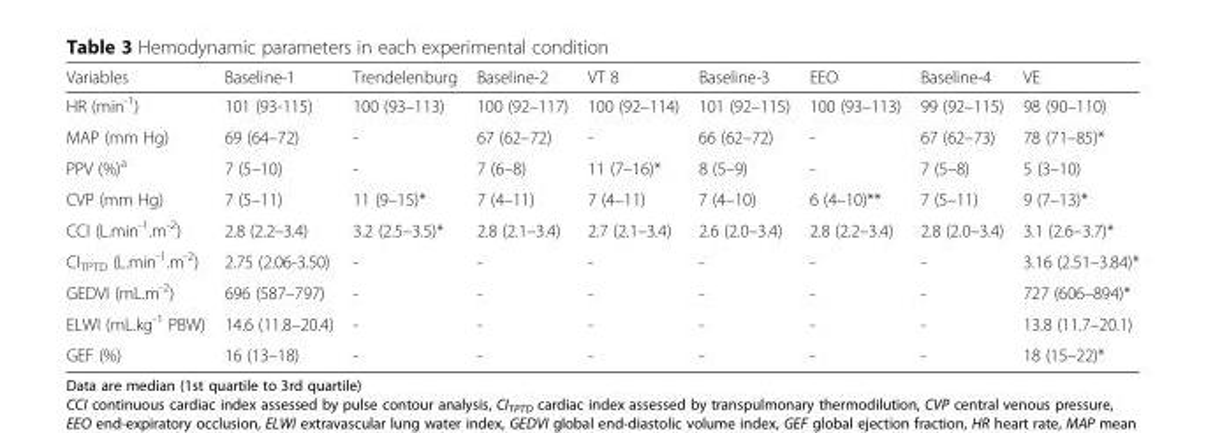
<table><thead><tr><td>Variables</td><td>Baseline-1</td><td>Trendelenburg</td><td>Baseline-2</td><td>VT 8</td><td>Baseline-3</td><td>EEO</td><td>Baseline-4</td><td>VE</td></tr></thead><tbody><tr><td>HR (min<sup>-1</sup>)</td><td>101 (93-115)</td><td>100 (93–113)</td><td>100 (92–117)</td><td>100 (92–114)</td><td>101 (92–115)</td><td>100 (93–113)</td><td>99 (92–115)</td><td>98 (90–110)</td></tr><tr><td>MAP (mm Hg)</td><td>69 (64–72)</td><td>-</td><td>67 (62–72)</td><td>-</td><td>66 (62–72)</td><td>-</td><td>67 (62–73)</td><td>78 (71–85)*</td></tr><tr><td>PPV (%)<sup>a</sup></td><td>7 (5–10)</td><td>-</td><td>7 (6–8)</td><td>11 (7–16)*</td><td>8 (5–9)</td><td>-</td><td>7 (5–8)</td><td>5 (3–10)</td></tr><tr><td>CVP (mm Hg)</td><td>7 (5–11)</td><td>11 (9–15)*</td><td>7 (4–11)</td><td>7 (4–11)</td><td>7 (4–10)</td><td>6 (4–10)**</td><td>7 (5–11)</td><td>9 (7–13)*</td></tr><tr><td>CCI (L.min<sup>-1</sup>.m<sup>-2</sup>)</td><td>2.8 (2.2–3.4)</td><td>3.2 (2.5–3.5)*</td><td>2.8 (2.1–3.4)</td><td>2.7 (2.1–3.4)</td><td>2.6 (2.0–3.4)</td><td>2.8 (2.2–3.4)</td><td>2.8 (2.0–3.4)</td><td>3.1 (2.6–3.7)*</td></tr><tr><td>CI<sub>TPTD</sub> (L.min<sup>-1</sup>.m<sup>-2</sup>)</td><td>2.75 (2.06-3.50)</td><td>-</td><td>-</td><td>-</td><td>-</td><td>-</td><td>-</td><td>3.16 (2.51–3.84)*</td></tr><tr><td>GEDVI (mL.m<sup>-2</sup>)</td><td>696 (587–797)</td><td>-</td><td>-</td><td>-</td><td>-</td><td>-</td><td>-</td><td>727 (606–894)*</td></tr><tr><td>ELWI (mL.kg<sup>-1</sup> PBW)</td><td>14.6 (11.8–20.4)</td><td>-</td><td>-</td><td>-</td><td>-</td><td>-</td><td>-</td><td>13.8 (11.7–20.1)</td></tr><tr><td>GEF (%)</td><td>16 (13–18)</td><td>-</td><td>-</td><td>-</td><td>-</td><td>-</td><td>-</td><td>18 (15–22)*</td></tr></tbody></table>